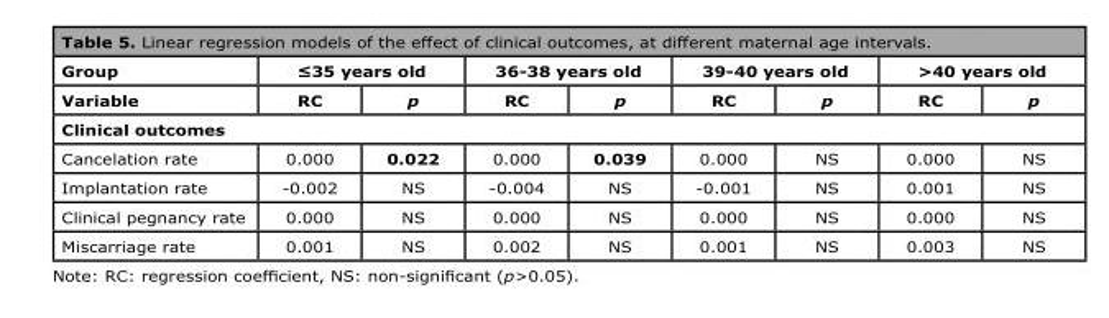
<table><thead><tr><td rowspan="2">Group Variable</td><td colspan="2">≤35 years old</td><td colspan="2">36-38 years old</td><td colspan="2">39-40 years old</td><td colspan="2">&gt;40 years old</td></tr><tr><td>RC</td><td>p</td><td>RC</td><td>p</td><td>RC</td><td>p</td><td>RC</td><td>p</td></tr></thead><tbody><tr><td colspan="9">Clinical outcomes</td></tr><tr><td>Cancelation rate</td><td>0.000</td><td>0.022</td><td>0.000</td><td>0.039</td><td>0.000</td><td>NS</td><td>0.000</td><td>NS</td></tr><tr><td>Implantation rate</td><td>-0.002</td><td>NS</td><td>-0.004</td><td>NS</td><td>-0.001</td><td>NS</td><td>0.001</td><td>NS</td></tr><tr><td>Clinical pegnancy rate</td><td>0.000</td><td>NS</td><td>0.000</td><td>NS</td><td>0.000</td><td>NS</td><td>0.000</td><td>NS</td></tr><tr><td>Miscarriage rate</td><td>0.001</td><td>NS</td><td>0.002</td><td>NS</td><td>0.001</td><td>NS</td><td>0.003</td><td>NS</td></tr></tbody></table>